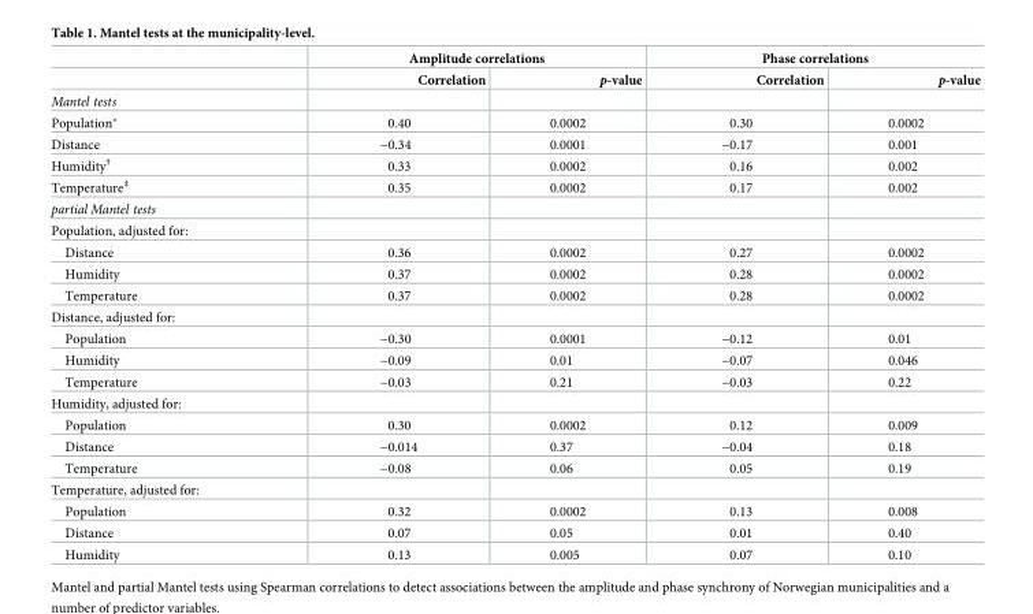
<table><thead><tr><td rowspan="2"></td><td colspan="2">Amplitude correlations</td><td colspan="2">Phase correlations</td></tr><tr><td>Correlation</td><td>p-value</td><td>Correlation</td><td>p-value</td></tr></thead><tbody><tr><td colspan="5">Mantel tests</td></tr><tr><td>Population*</td><td>0.40</td><td>0.0002</td><td>0.30</td><td>0.0002</td></tr><tr><td>Distance</td><td>−0.34</td><td>0.0001</td><td>−0.17</td><td>0.001</td></tr><tr><td>Humidity<sup>†</sup></td><td>0.33</td><td>0.0002</td><td>0.16</td><td>0.002</td></tr><tr><td>Temperature<sup>‡</sup></td><td>0.35</td><td>0.0002</td><td>0.17</td><td>0.002</td></tr><tr><td colspan="5">partial Mantel tests</td></tr><tr><td colspan="5">Population, adjusted for:</td></tr><tr><td>Distance</td><td>0.36</td><td>0.0002</td><td>0.27</td><td>0.0002</td></tr><tr><td>Humidity</td><td>0.37</td><td>0.0002</td><td>0.28</td><td>0.0002</td></tr><tr><td>Temperature</td><td>0.37</td><td>0.0002</td><td>0.28</td><td>0.0002</td></tr><tr><td colspan="5">Distance, adjusted for:</td></tr><tr><td>Population</td><td>−0.30</td><td>0.0001</td><td>−0.12</td><td>0.01</td></tr><tr><td>Humidity</td><td>−0.09</td><td>0.01</td><td>−0.07</td><td>0.046</td></tr><tr><td>Temperature</td><td>−0.03</td><td>0.21</td><td>−0.03</td><td>0.22</td></tr><tr><td colspan="5">Humidity, adjusted for:</td></tr><tr><td>Population</td><td>0.30</td><td>0.0002</td><td>0.12</td><td>0.009</td></tr><tr><td>Distance</td><td>−0.014</td><td>0.37</td><td>−0.04</td><td>0.18</td></tr><tr><td>Temperature</td><td>−0.08</td><td>0.06</td><td>0.05</td><td>0.19</td></tr><tr><td colspan="5">Temperature, adjusted for:</td></tr><tr><td>Population</td><td>0.32</td><td>0.0002</td><td>0.13</td><td>0.008</td></tr><tr><td>Distance</td><td>0.07</td><td>0.05</td><td>0.01</td><td>0.40</td></tr><tr><td>Humidity</td><td>0.13</td><td>0.005</td><td>0.07</td><td>0.10</td></tr></tbody></table>